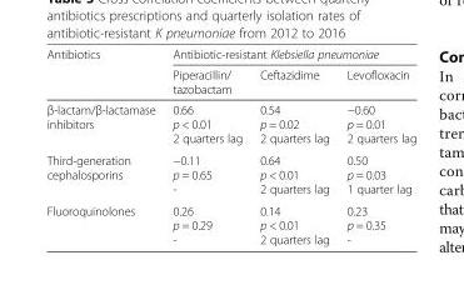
<table><thead><tr><td rowspan="2">Antibiotics</td><td colspan="3">Antibiotic-resistant Klebsiella pneumoniae</td></tr><tr><td>Piperacillin/ tazobactam</td><td>Ceftazidime</td><td>Levofloxacin</td></tr></thead><tbody><tr><td>β-lactam/β-lactamase inhibitors</td><td>0.66 p &lt; 0.01 2 quarters lag</td><td>0.54 p = 0.02 2 quarters lag</td><td>−0.60 p = 0.01 2 quarters lag</td></tr><tr><td>Third-generation cephalosporins</td><td>−0.11 p = 0.65 -</td><td>0.64 p &lt; 0.01 2 quarters lag</td><td>0.50 p = 0.03 1 quarter lag</td></tr><tr><td>Fluoroquinolones</td><td>0.26 p = 0.29 -</td><td>0.14 p &lt; 0.01 2 quarters lag</td><td>0.23 p = 0.35 -</td></tr></tbody></table>